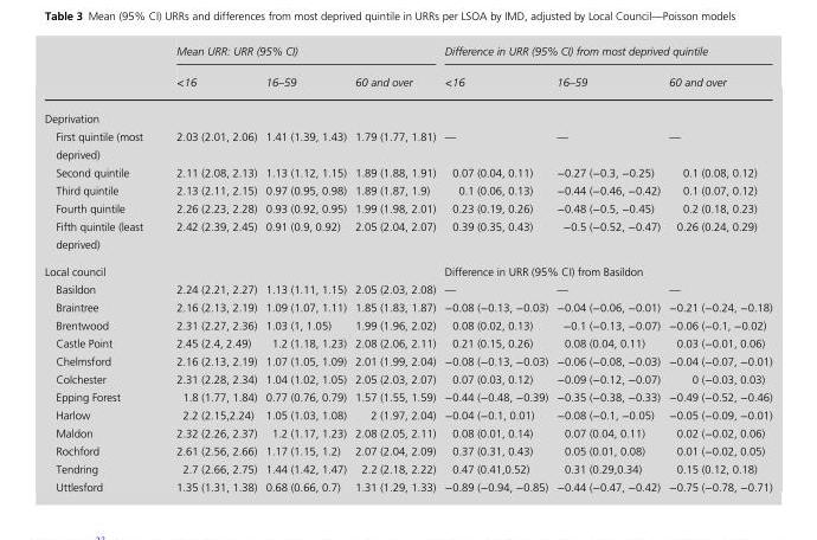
<table><thead><tr><td rowspan="2"></td><td colspan="3">Mean URR: URR (95% CI)</td><td colspan="3">Difference in URR (95% CI) from most deprived quintile</td></tr><tr><td>&lt;16</td><td>16–59</td><td>60 and over</td><td>&lt;16</td><td>16–59</td><td>60 and over</td></tr></thead><tbody><tr><td colspan="7">Deprivation</td></tr><tr><td>First quintile (most deprived)</td><td>2.03 (2.01, 2.06)</td><td>1.41 (1.39, 1.43)</td><td>1.79 (1.77, 1.81)</td><td>—</td><td>—</td><td>—</td></tr><tr><td>Second quintile</td><td>2.11 (2.08, 2.13)</td><td>1.13 (1.12, 1.15)</td><td>1.89 (1.88, 1.91)</td><td>0.07 (0.04, 0.11)</td><td>−0.27 (−0.3, −0.25)</td><td>0.1 (0.08, 0.12)</td></tr><tr><td>Third quintile</td><td>2.13 (2.11, 2.15)</td><td>0.97 (0.95, 0.98)</td><td>1.89 (1.87, 1.9)</td><td>0.1 (0.06, 0.13)</td><td>−0.44 (−0.46, −0.42)</td><td>0.1 (0.07, 0.12)</td></tr><tr><td>Fourth quintile</td><td>2.26 (2.23, 2.28)</td><td>0.93 (0.92, 0.95)</td><td>1.99 (1.98, 2.01)</td><td>0.23 (0.19, 0.26)</td><td>−0.48 (−0.5, −0.45)</td><td>0.2 (0.18, 0.23)</td></tr><tr><td>Fifth quintile (least deprived)</td><td>2.42 (2.39, 2.45)</td><td>0.91 (0.9, 0.92)</td><td>2.05 (2.04, 2.07)</td><td>0.39 (0.35, 0.43)</td><td>−0.5 (−0.52, −0.47)</td><td>0.26 (0.24, 0.29)</td></tr><tr><td>Local council</td><td></td><td></td><td></td><td colspan="3">Difference in URR (95% CI) from Basildon</td></tr><tr><td>Basildon</td><td>2.24 (2.21, 2.27)</td><td>1.13 (1.11, 1.15)</td><td>2.05 (2.03, 2.08)</td><td>—</td><td>—</td><td>—</td></tr><tr><td>Braintree</td><td>2.16 (2.13, 2.19)</td><td>1.09 (1.07, 1.11)</td><td>1.85 (1.83, 1.87)</td><td>−0.08 (−0.13, −0.03)</td><td>−0.04 (−0.06, −0.01)</td><td>−0.21 (−0.24, −0.18)</td></tr><tr><td>Brentwood</td><td>2.31 (2.27, 2.36)</td><td>1.03 (1, 1.05)</td><td>1.99 (1.96, 2.02)</td><td>0.08 (0.02, 0.13)</td><td>−0.1 (−0.13, −0.07)</td><td>−0.06 (−0.1, −0.02)</td></tr><tr><td>Castle Point</td><td>2.45 (2.4, 2.49)</td><td>1.2 (1.18, 1.23)</td><td>2.08 (2.06, 2.11)</td><td>0.21 (0.15, 0.26)</td><td>0.08 (0.04, 0.11)</td><td>0.03 (−0.01, 0.06)</td></tr><tr><td>Chelmsford</td><td>2.16 (2.13, 2.19)</td><td>1.07 (1.05, 1.09)</td><td>2.01 (1.99, 2.04)</td><td>−0.08 (−0.13, −0.03)</td><td>−0.06 (−0.08, −0.03)</td><td>−0.04 (−0.07, −0.01)</td></tr><tr><td>Colchester</td><td>2.31 (2.28, 2.34)</td><td>1.04 (1.02, 1.05)</td><td>2.05 (2.03, 2.07)</td><td>0.07 (0.03, 0.12)</td><td>−0.09 (−0.12, −0.07)</td><td>0 (−0.03, 0.03)</td></tr><tr><td>Epping Forest</td><td>1.8 (1.77, 1.84)</td><td>0.77 (0.76, 0.79)</td><td>1.57 (1.55, 1.59)</td><td>−0.44 (−0.48, −0.39)</td><td>−0.35 (−0.38, −0.33)</td><td>−0.49 (−0.52, −0.46)</td></tr><tr><td>Harlow</td><td>2.2 (2.15,2.24)</td><td>1.05 (1.03, 1.08)</td><td>2 (1.97, 2.04)</td><td>−0.04 (−0.1, 0.01)</td><td>−0.08 (−0.1, −0.05)</td><td>−0.05 (−0.09, −0.01)</td></tr><tr><td>Maldon</td><td>2.32 (2.26, 2.37)</td><td>1.2 (1.17, 1.23)</td><td>2.08 (2.05, 2.11)</td><td>0.08 (0.01, 0.14)</td><td>0.07 (0.04, 0.11)</td><td>0.02 (−0.02, 0.06)</td></tr><tr><td>Rochford</td><td>2.61 (2.56, 2.66)</td><td>1.17 (1.15, 1.2)</td><td>2.07 (2.04, 2.09)</td><td>0.37 (0.31, 0.43)</td><td>0.05 (0.01, 0.08)</td><td>0.01 (−0.02, 0.05)</td></tr><tr><td>Tendring</td><td>2.7 (2.66, 2.75)</td><td>1.44 (1.42, 1.47)</td><td>2.2 (2.18, 2.22)</td><td>0.47 (0.41,0.52)</td><td>0.31 (0.29,0.34)</td><td>0.15 (0.12, 0.18)</td></tr><tr><td>Uttlesford</td><td>1.35 (1.31, 1.38)</td><td>0.68 (0.66, 0.7)</td><td>1.31 (1.29, 1.33)</td><td>−0.89 (−0.94, −0.85)</td><td>−0.44 (−0.47, −0.42)</td><td>−0.75 (−0.78, −0.71)</td></tr></tbody></table>